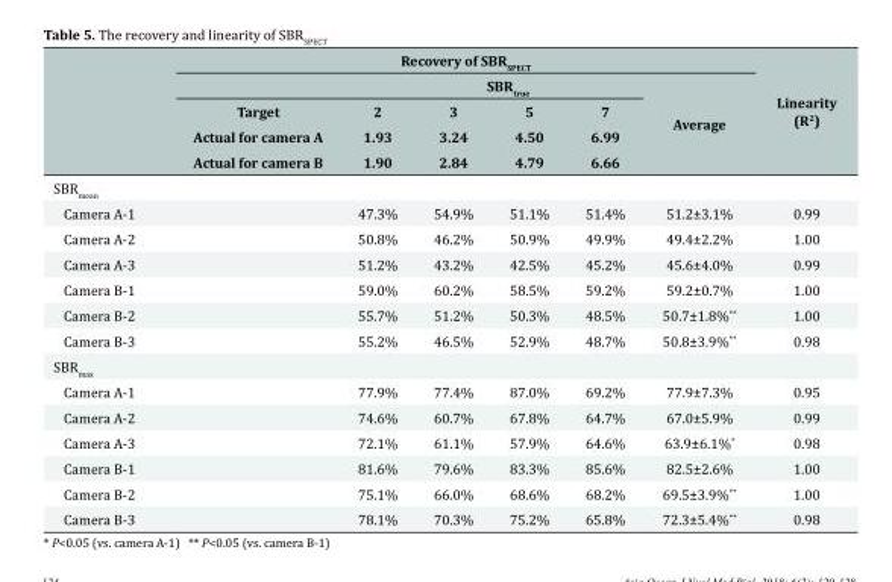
<table><thead><tr><td rowspan="5"></td><td colspan="6">Recovery of SBR<sub>SPECT</sub></td><td rowspan="5">Linearity (R<sup>2</sup>)</td></tr><tr><td colspan="5">SBR<sub>true</sub></td><td rowspan="4">Average</td></tr><tr><td rowspan="3">Target Actual for camera A Actual for camera B</td><td rowspan="3">2 1.93 1.90</td><td rowspan="3">3 3.24 2.84</td><td rowspan="3">5 4.50 4.79</td><td rowspan="3">7 6.99 6.66</td></tr><tr></tr><tr></tr></thead><tbody><tr><td colspan="8">SBR<sub>mean</sub></td></tr><tr><td>Camera A-1</td><td></td><td>47.3%</td><td>54.9%</td><td>51.1%</td><td>51.4%</td><td>51.2±3.1%</td><td>0.99</td></tr><tr><td>Camera A-2</td><td></td><td>50.8%</td><td>46.2%</td><td>50.9%</td><td>49.9%</td><td>49.4±2.2%</td><td>1.00</td></tr><tr><td>Camera A-3</td><td></td><td>51.2%</td><td>43.2%</td><td>42.5%</td><td>45.2%</td><td>45.6±4.0%</td><td>0.99</td></tr><tr><td>Camera B-1</td><td></td><td>59.0%</td><td>60.2%</td><td>58.5%</td><td>59.2%</td><td>59.2±0.7%</td><td>1.00</td></tr><tr><td>Camera B-2</td><td></td><td>55.7%</td><td>51.2%</td><td>50.3%</td><td>48.5%</td><td>50.7±1.8%**</td><td>1.00</td></tr><tr><td>Camera B-3</td><td></td><td>55.2%</td><td>46.5%</td><td>52.9%</td><td>48.7%</td><td>50.8±3.9%**</td><td>0.98</td></tr><tr><td colspan="8">SBR<sub>max</sub></td></tr><tr><td>Camera A-1</td><td></td><td>77.9%</td><td>77.4%</td><td>87.0%</td><td>69.2%</td><td>77.9±7.3%</td><td>0.95</td></tr><tr><td>Camera A-2</td><td></td><td>74.6%</td><td>60.7%</td><td>67.8%</td><td>64.7%</td><td>67.0±5.9%</td><td>0.99</td></tr><tr><td>Camera A-3</td><td></td><td>72.1%</td><td>61.1%</td><td>57.9%</td><td>64.6%</td><td>63.9±6.1%*</td><td>0.98</td></tr><tr><td>Camera B-1</td><td></td><td>81.6%</td><td>79.6%</td><td>83.3%</td><td>85.6%</td><td>82.5±2.6%</td><td>1.00</td></tr><tr><td>Camera B-2</td><td></td><td>75.1%</td><td>66.0%</td><td>68.6%</td><td>68.2%</td><td>69.5±3.9%**</td><td>1.00</td></tr><tr><td>Camera B-3</td><td></td><td>78.1%</td><td>70.3%</td><td>75.2%</td><td>65.8%</td><td>72.3±5.4%**</td><td>0.98</td></tr></tbody></table>